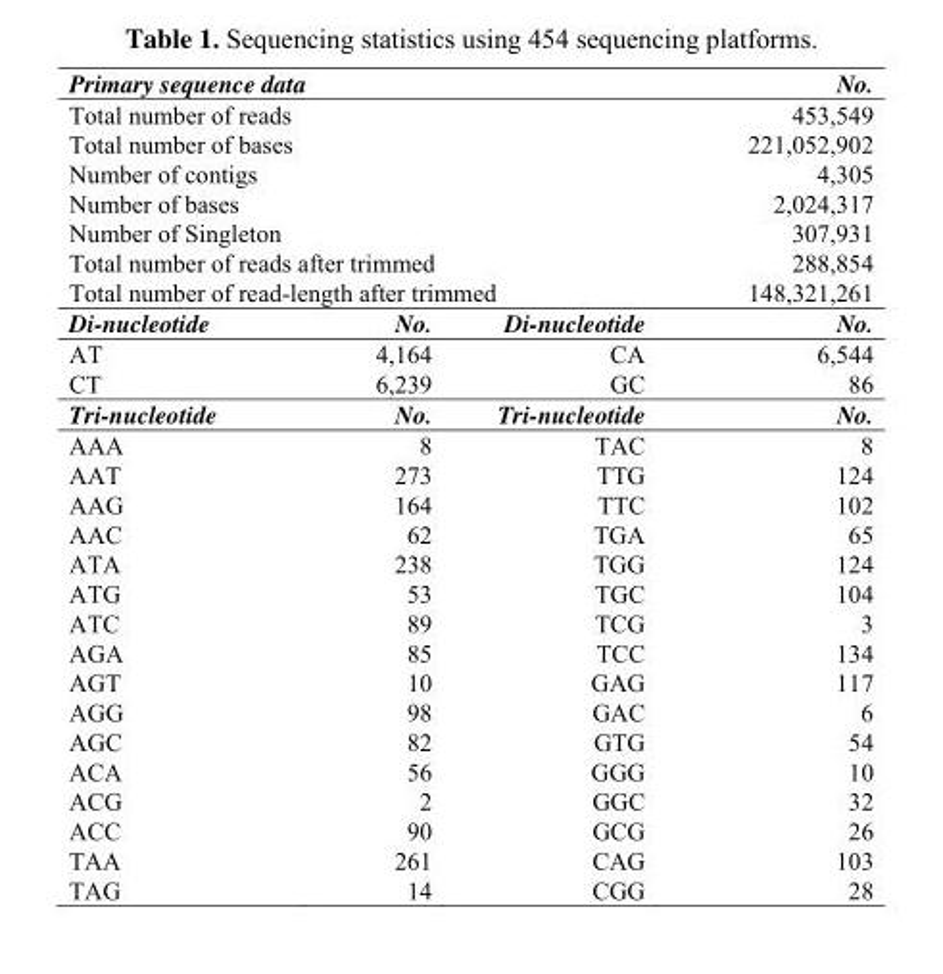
<table><thead><tr><td colspan="3">Primary sequence data</td><td>No.</td></tr></thead><tbody><tr><td colspan="3">Total number of reads</td><td>453,549</td></tr><tr><td colspan="3">Total number of bases</td><td>221,052,902</td></tr><tr><td colspan="3">Number of contigs</td><td>4,305</td></tr><tr><td colspan="3">Number of bases</td><td>2,024,317</td></tr><tr><td colspan="3">Number of Singleton</td><td>307,931</td></tr><tr><td colspan="3">Total number of reads after trimmed</td><td>288,854</td></tr><tr><td colspan="3">Total number of read-length after trimmed</td><td>148,321,261</td></tr><tr><td>Di-nucleotide</td><td>No.</td><td>Di-nucleotide</td><td>No.</td></tr><tr><td>AT</td><td>4,164</td><td>CA</td><td>6,544</td></tr><tr><td>CT</td><td>6,239</td><td>GC</td><td>86</td></tr><tr><td>Tri-nucleotide</td><td>No.</td><td>Tri-nucleotide</td><td>No.</td></tr><tr><td>AAA</td><td>8</td><td>TAC</td><td>8</td></tr><tr><td>AAT</td><td>273</td><td>TTG</td><td>124</td></tr><tr><td>AAG</td><td>164</td><td>TTC</td><td>102</td></tr><tr><td>AAC</td><td>62</td><td>TGA</td><td>65</td></tr><tr><td>ATA</td><td>238</td><td>TGG</td><td>124</td></tr><tr><td>ATG</td><td>53</td><td>TGC</td><td>104</td></tr><tr><td>ATC</td><td>89</td><td>TCG</td><td>3</td></tr><tr><td>AGA</td><td>85</td><td>TCC</td><td>134</td></tr><tr><td>AGT</td><td>10</td><td>GAG</td><td>117</td></tr><tr><td>AGG</td><td>98</td><td>GAC</td><td>6</td></tr><tr><td>AGC</td><td>82</td><td>GTG</td><td>54</td></tr><tr><td>ACA</td><td>56</td><td>GGG</td><td>10</td></tr><tr><td>ACG</td><td>2</td><td>GGC</td><td>32</td></tr><tr><td>ACC</td><td>90</td><td>GCG</td><td>26</td></tr><tr><td>TAA</td><td>261</td><td>CAG</td><td>103</td></tr><tr><td>TAG</td><td>14</td><td>CGG</td><td>28</td></tr></tbody></table>